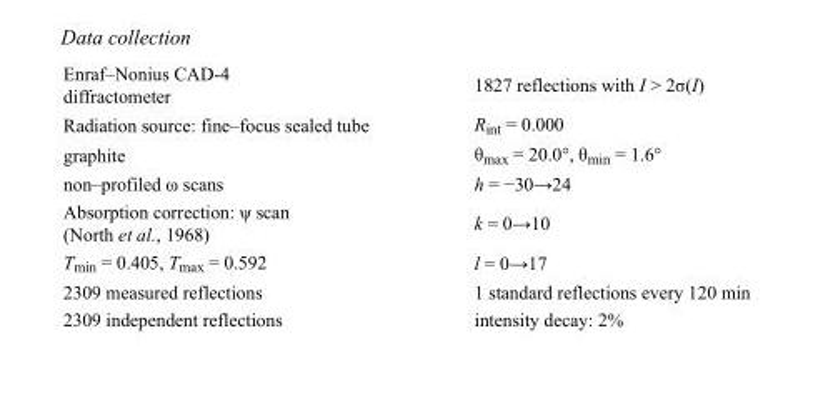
<table><tbody><tr><td>Enraf–Nonius CAD-4 diffractometer</td><td>1827 reflections with I &gt; 2σ(I)</td></tr><tr><td>Radiation source: fine–focus sealed tube</td><td>R<sub>int</sub> = 0.000</td></tr><tr><td>graphite</td><td>θ<sub>max</sub> = 20.0°, θ<sub>min</sub> = 1.6°</td></tr><tr><td>non–profiled ω scans</td><td>h = −30→24</td></tr><tr><td>Absorption correction: ψ scan (North et al., 1968)</td><td>k = 0→10</td></tr><tr><td>T<sub>min</sub> = 0.405, T<sub>max</sub> = 0.592</td><td>l = 0→17</td></tr><tr><td>2309 measured reflections</td><td>1 standard reflections every 120 min</td></tr><tr><td>2309 independent reflections</td><td>intensity decay: 2%</td></tr></tbody></table>